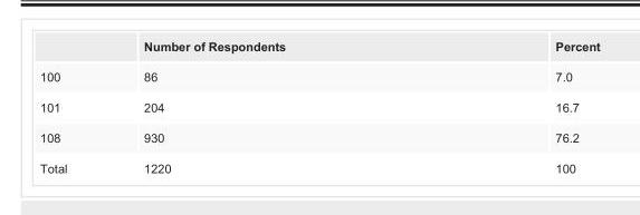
<table><thead><tr><td></td><td>Number of Respondents</td><td>Percent</td></tr></thead><tbody><tr><td>100</td><td>86</td><td>7.0</td></tr><tr><td>101</td><td>204</td><td>16.7</td></tr><tr><td>108</td><td>930</td><td>76.2</td></tr><tr><td>Total</td><td>1220</td><td>100</td></tr></tbody></table>